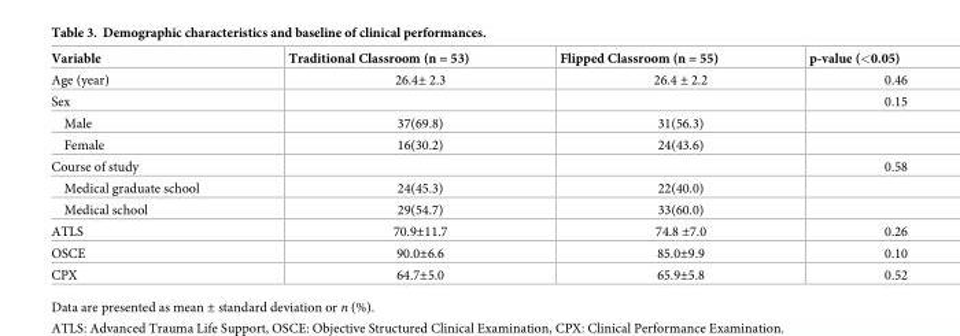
<table><thead><tr><td>Variable</td><td>Traditional Classroom (n = 53)</td><td>Flipped Classroom (n = 55)</td><td>p-value (&lt;0.05)</td></tr></thead><tbody><tr><td>Age (year)</td><td>26.4± 2.3</td><td>26.4 ± 2.2</td><td>0.46</td></tr><tr><td>Sex</td><td></td><td></td><td>0.15</td></tr><tr><td>Male</td><td>37(69.8)</td><td>31(56.3)</td><td></td></tr><tr><td>Female</td><td>16(30.2)</td><td>24(43.6)</td><td></td></tr><tr><td>Course of study</td><td></td><td></td><td>0.58</td></tr><tr><td>Medical graduate school</td><td>24(45.3)</td><td>22(40.0)</td><td></td></tr><tr><td>Medical school</td><td>29(54.7)</td><td>33(60.0)</td><td></td></tr><tr><td>ATLS</td><td>70.9±11.7</td><td>74.8 ±7.0</td><td>0.26</td></tr><tr><td>OSCE</td><td>90.0±6.6</td><td>85.0±9.9</td><td>0.10</td></tr><tr><td>CPX</td><td>64.7±5.0</td><td>65.9±5.8</td><td>0.52</td></tr></tbody></table>